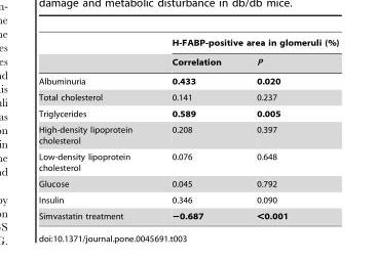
<table><thead><tr><td rowspan="2"></td><td colspan="2">H-FABP-positive area in glomeruli (%)</td></tr><tr><td>Correlation</td><td>P</td></tr></thead><tbody><tr><td>Albuminuria</td><td>0.433</td><td>0.020</td></tr><tr><td>Total cholesterol</td><td>0.141</td><td>0.237</td></tr><tr><td>Triglycerides</td><td>0.589</td><td>0.005</td></tr><tr><td>High-density lipoprotein cholesterol</td><td>0.208</td><td>0.397</td></tr><tr><td>Low-density lipoprotein cholesterol</td><td>0.076</td><td>0.648</td></tr><tr><td>Glucose</td><td>0.045</td><td>0.792</td></tr><tr><td>Insulin</td><td>0.346</td><td>0.090</td></tr><tr><td>Simvastatin treatment</td><td>−0.687</td><td>&lt;0.001</td></tr></tbody></table>